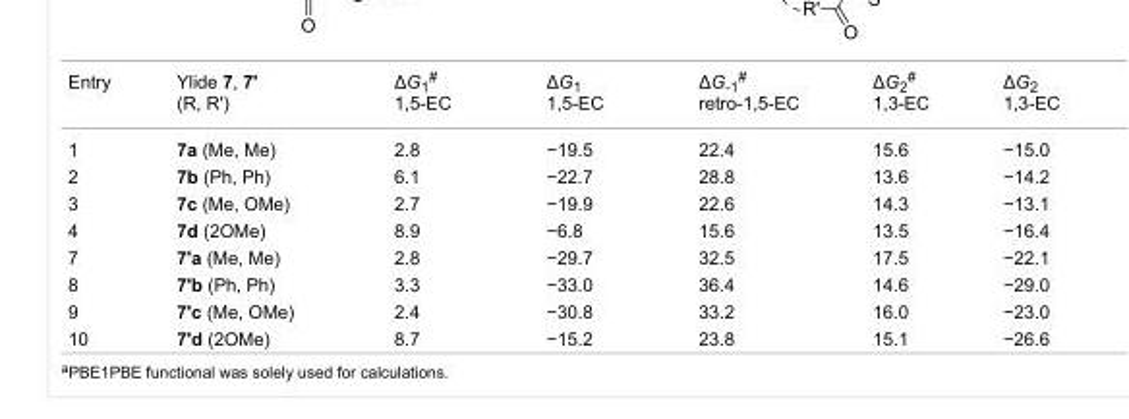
<table><tbody><tr><td>Entry</td><td>Ylide 7, 7&#x27; (R, R&#x27;)</td><td>ΔG<sub>1</sub><sup>#</sup> 1,5-EC</td><td>ΔG<sub>1</sub> 1,5-EC</td><td>ΔG<sub>-1</sub><sup>#</sup> retro-1,5-EC</td><td>ΔG<sub>2</sub><sup>#</sup> 1,3-EC</td><td>ΔG<sub>2</sub> 1,3-EC</td></tr><tr><td>1</td><td>7a (Me, Me)</td><td>2.8</td><td>−19.5</td><td>22.4</td><td>15.6</td><td>−15.0</td></tr><tr><td>2</td><td>7b (Ph, Ph)</td><td>6.1</td><td>−22.7</td><td>28.8</td><td>13.6</td><td>−14.2</td></tr><tr><td>3</td><td>7c (Me, OMe)</td><td>2.7</td><td>−19.9</td><td>22.6</td><td>14.3</td><td>−13.1</td></tr><tr><td>4</td><td>7d (2OMe)</td><td>8.9</td><td>−6.8</td><td>15.6</td><td>13.5</td><td>−16.4</td></tr><tr><td>7</td><td>7&#x27;a (Me, Me)</td><td>2.8</td><td>−29.7</td><td>32.5</td><td>17.5</td><td>−22.1</td></tr><tr><td>8</td><td>7&#x27;b (Ph, Ph)</td><td>3.3</td><td>−33.0</td><td>36.4</td><td>14.6</td><td>−29.0</td></tr><tr><td>9</td><td>7&#x27;c (Me, OMe)</td><td>2.4</td><td>−30.8</td><td>33.2</td><td>16.0</td><td>−23.0</td></tr><tr><td>10</td><td>7&#x27;d (2OMe)</td><td>8.7</td><td>−15.2</td><td>23.8</td><td>15.1</td><td>−26.6</td></tr></tbody></table>